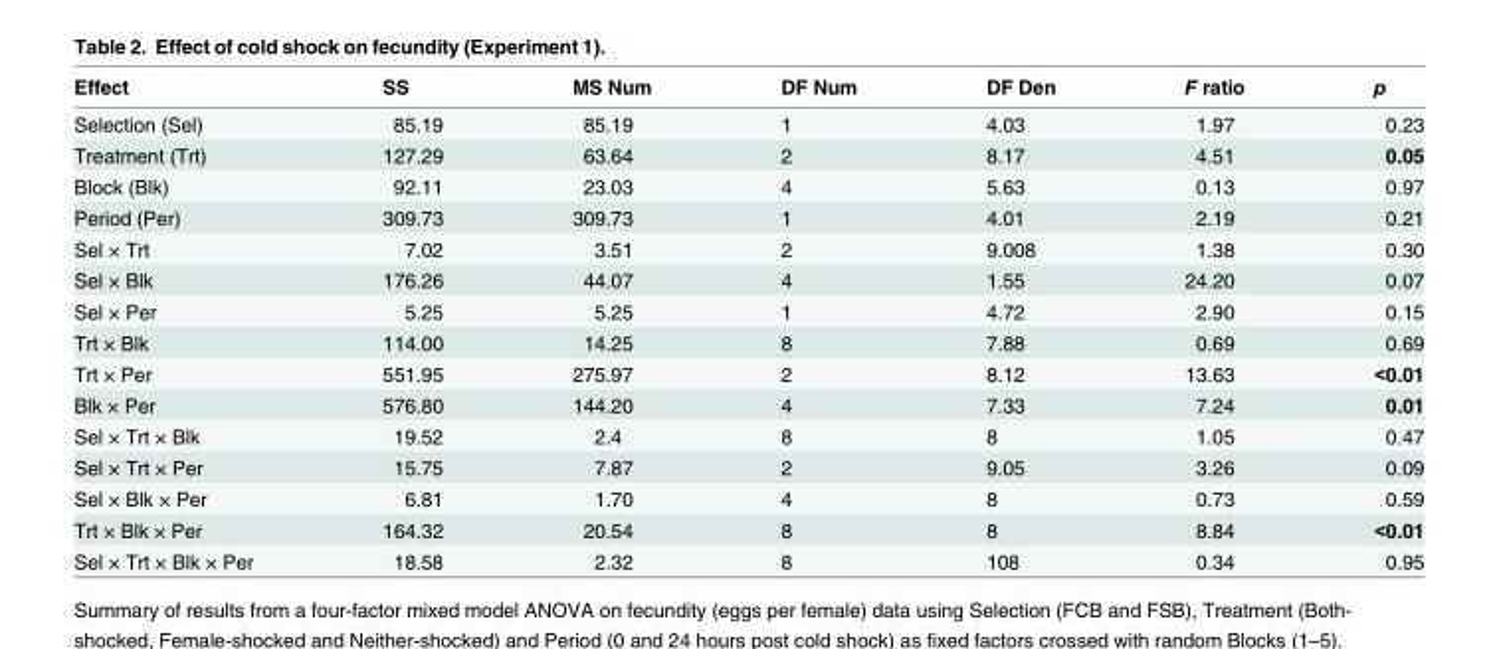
<table><thead><tr><td>Effect</td><td>SS</td><td>MS Num</td><td>DF Num</td><td>DF Den</td><td>F ratio</td><td>p</td></tr></thead><tbody><tr><td>Selection (Sel)</td><td>85.19</td><td>85.19</td><td>1</td><td>4.03</td><td>1.97</td><td>0.23</td></tr><tr><td>Treatment (Trt)</td><td>127.29</td><td>63.64</td><td>2</td><td>8.17</td><td>4.51</td><td>0.05</td></tr><tr><td>Block (Blk)</td><td>92.11</td><td>23.03</td><td>4</td><td>5.63</td><td>0.13</td><td>0.97</td></tr><tr><td>Period (Per)</td><td>309.73</td><td>309.73</td><td>1</td><td>4.01</td><td>2.19</td><td>0.21</td></tr><tr><td>Sel × Trt</td><td>7.02</td><td>3.51</td><td>2</td><td>9.008</td><td>1.38</td><td>0.30</td></tr><tr><td>Sel × Blk</td><td>176.26</td><td>44.07</td><td>4</td><td>1.55</td><td>24.20</td><td>0.07</td></tr><tr><td>Sel × Per</td><td>5.25</td><td>5.25</td><td>1</td><td>4.72</td><td>2.90</td><td>0.15</td></tr><tr><td>Trt × Blk</td><td>114.00</td><td>14.25</td><td>8</td><td>7.88</td><td>0.69</td><td>0.69</td></tr><tr><td>Trt × Per</td><td>551.95</td><td>275.97</td><td>2</td><td>8.12</td><td>13.63</td><td>&lt;0.01</td></tr><tr><td>Blk × Per</td><td>576.80</td><td>144.20</td><td>4</td><td>7.33</td><td>7.24</td><td>0.01</td></tr><tr><td>Sel × Trt × Blk</td><td>19.52</td><td>2.4</td><td>8</td><td>8</td><td>1.05</td><td>0.47</td></tr><tr><td>Sel × Trt × Per</td><td>15.75</td><td>7.87</td><td>2</td><td>9.05</td><td>3.26</td><td>0.09</td></tr><tr><td>Sel × Blk × Per</td><td>6.81</td><td>1.70</td><td>4</td><td>8</td><td>0.73</td><td>0.59</td></tr><tr><td>Trt × Blk × Per</td><td>164.32</td><td>20.54</td><td>8</td><td>8</td><td>8.84</td><td>&lt;0.01</td></tr><tr><td>Sel × Trt × Blk × Per</td><td>18.58</td><td>2.32</td><td>8</td><td>108</td><td>0.34</td><td>0.95</td></tr></tbody></table>